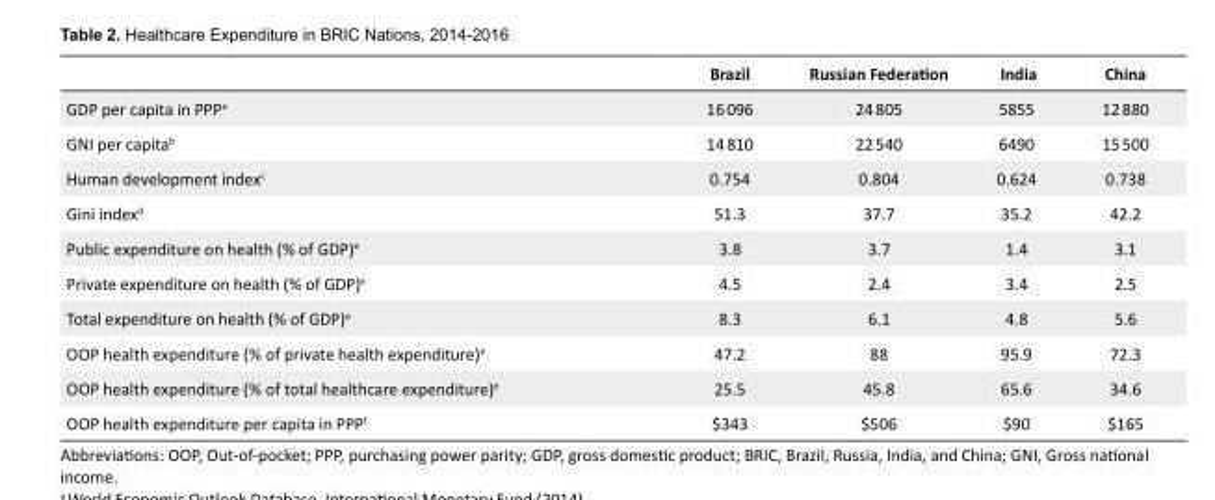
<table><thead><tr><td></td><td>Brazil</td><td>Russian Federation</td><td>India</td><td>China</td></tr></thead><tbody><tr><td>GDP per capita in PPP<sup>a</sup></td><td>16 096</td><td>24 805</td><td>5855</td><td>12 880</td></tr><tr><td>GNI per capita<sup>b</sup></td><td>14 810</td><td>22 540</td><td>6490</td><td>15 500</td></tr><tr><td>Human development index<sup>c</sup></td><td>0.754</td><td>0.804</td><td>0.624</td><td>0.738</td></tr><tr><td>Gini index<sup>d</sup></td><td>51.3</td><td>37.7</td><td>35.2</td><td>42.2</td></tr><tr><td>Public expenditure on health (% of GDP)<sup>e</sup></td><td>3.8</td><td>3.7</td><td>1.4</td><td>3.1</td></tr><tr><td>Private expenditure on health (% of GDP)<sup>e</sup></td><td>4.5</td><td>2.4</td><td>3.4</td><td>2.5</td></tr><tr><td>Total expenditure on health (% of GDP)<sup>e</sup></td><td>8.3</td><td>6.1</td><td>4.8</td><td>5.6</td></tr><tr><td>OOP health expenditure (% of private health expenditure)<sup>e</sup></td><td>47.2</td><td>88</td><td>95.9</td><td>72.3</td></tr><tr><td>OOP health expenditure (% of total healthcare expenditure)<sup>e</sup></td><td>25.5</td><td>45.8</td><td>65.6</td><td>34.6</td></tr><tr><td>OOP health expenditure per capita in PPP<sup>f</sup></td><td>$343</td><td>$506</td><td>$90</td><td>$165</td></tr></tbody></table>